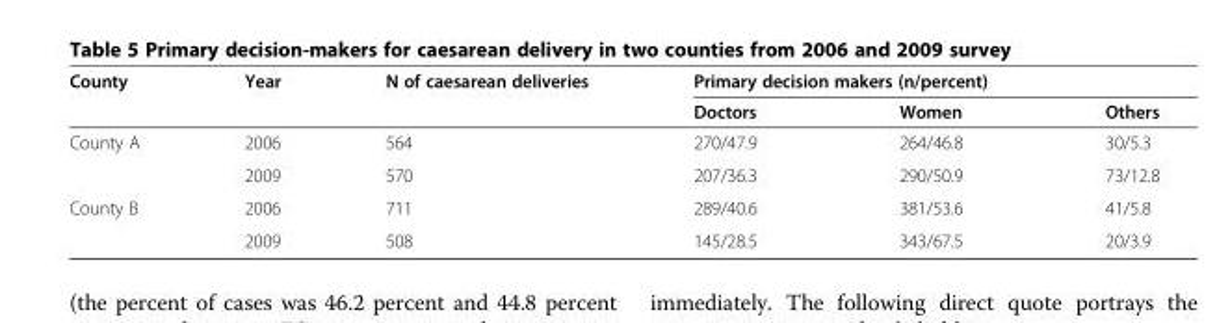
<table><thead><tr><td rowspan="2">County</td><td rowspan="2">Year</td><td rowspan="2">N of caesarean deliveries</td><td colspan="3">Primary decision makers (n/percent)</td></tr><tr><td>Doctors</td><td>Women</td><td>Others</td></tr></thead><tbody><tr><td rowspan="2">County A</td><td>2006</td><td>564</td><td>270/47.9</td><td>264/46.8</td><td>30/5.3</td></tr><tr><td>2009</td><td>570</td><td>207/36.3</td><td>290/50.9</td><td>73/12.8</td></tr><tr><td rowspan="2">County B</td><td>2006</td><td>711</td><td>289/40.6</td><td>381/53.6</td><td>41/5.8</td></tr><tr><td>2009</td><td>508</td><td>145/28.5</td><td>343/67.5</td><td>20/3.9</td></tr></tbody></table>